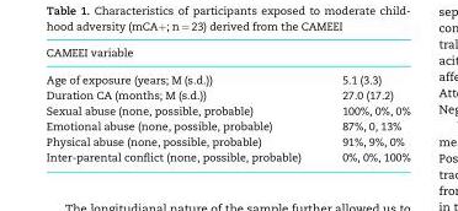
<table><thead><tr><td>CAMEEI variable</td><td></td></tr></thead><tbody><tr><td>Age of exposure (years; M (s.d.))</td><td>5.1 (3.3)</td></tr><tr><td>Duration CA (months; M (s.d.))</td><td>27.0 (17.2)</td></tr><tr><td>Sexual abuse (none, possible, probable)</td><td>100%, 0%, 0%</td></tr><tr><td>Emotional abuse (none, possible, probable)</td><td>87%, 0, 13%</td></tr><tr><td>Physical abuse (none, possible, probable)</td><td>91%, 9%, 0%</td></tr><tr><td>Inter-parental conflict (none, possible, probable)</td><td>0%, 0%, 100%</td></tr></tbody></table>